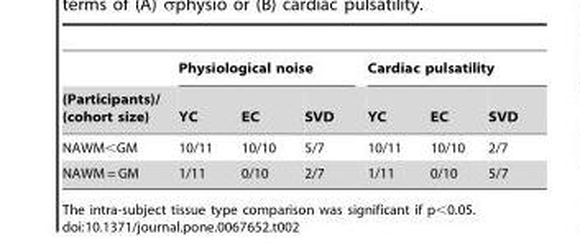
<table><thead><tr><td rowspan="2">(Participants)/ (cohort size)</td><td colspan="3">Physiological noise</td><td colspan="3">Cardiac pulsatility</td></tr><tr><td>YC</td><td>EC</td><td>SVD</td><td>YC</td><td>EC</td><td>SVD</td></tr></thead><tbody><tr><td>NAWM&lt;GM</td><td>10/11</td><td>10/10</td><td>5/7</td><td>10/11</td><td>10/10</td><td>2/7</td></tr><tr><td>NAWM = GM</td><td>1/11</td><td>0/10</td><td>2/7</td><td>1/11</td><td>0/10</td><td>5/7</td></tr></tbody></table>